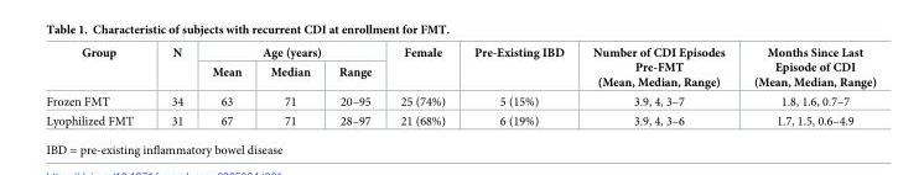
<table><thead><tr><td rowspan="2">Group</td><td rowspan="2">N</td><td colspan="3">Age (years)</td><td rowspan="2">Female</td><td rowspan="2">Pre-Existing IBD</td><td rowspan="2">Number of CDI Episodes Pre-FMT (Mean, Median, Range)</td><td rowspan="2">Months Since Last Episode of CDI (Mean, Median, Range)</td></tr><tr><td>Mean</td><td>Median</td><td>Range</td></tr></thead><tbody><tr><td>Frozen FMT</td><td>34</td><td>63</td><td>71</td><td>20–95</td><td>25 (74%)</td><td>5 (15%)</td><td>3.9, 4, 3–7</td><td>1.8, 1.6, 0.7–7</td></tr><tr><td>Lyophilized FMT</td><td>31</td><td>67</td><td>71</td><td>28–97</td><td>21 (68%)</td><td>6 (19%)</td><td>3.9, 4, 3–6</td><td>1.7, 1.5, 0.6–4.9</td></tr></tbody></table>